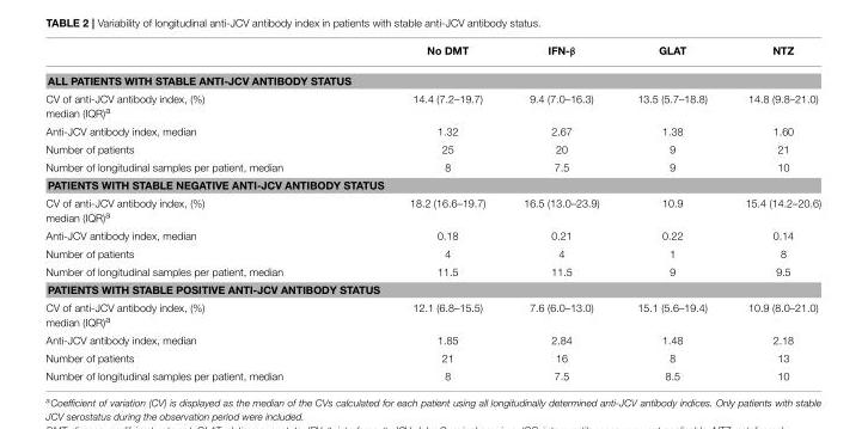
<table><thead><tr><td></td><td>No DMT</td><td>IFN-β</td><td>GLAT</td><td>NTZ</td></tr></thead><tbody><tr><td colspan="5">ALL PATIENTS WITH STABLE ANTI-JCV ANTIBODY STATUS</td></tr><tr><td>CV of anti-JCV antibody index, (%) median (IQR)<sup>a</sup></td><td>14.4 (7.2–19.7)</td><td>9.4 (7.0–16.3)</td><td>13.5 (5.7–18.8)</td><td>14.8 (9.8–21.0)</td></tr><tr><td>Anti-JCV antibody index, median</td><td>1.32</td><td>2.67</td><td>1.38</td><td>1.60</td></tr><tr><td>Number of patients</td><td>25</td><td>20</td><td>9</td><td>21</td></tr><tr><td>Number of longitudinal samples per patient, median</td><td>8</td><td>7.5</td><td>9</td><td>10</td></tr><tr><td colspan="5">PATIENTS WITH STABLE NEGATIVE ANTI-JCV ANTIBODY STATUS</td></tr><tr><td>CV of anti-JCV antibody index, (%) median (IQR)<sup>a</sup></td><td>18.2 (16.6–19.7)</td><td>16.5 (13.0–23.9)</td><td>10.9</td><td>15.4 (14.2–20.6)</td></tr><tr><td>Anti-JCV antibody index, median</td><td>0.18</td><td>0.21</td><td>0.22</td><td>0.14</td></tr><tr><td>Number of patients</td><td>4</td><td>4</td><td>1</td><td>8</td></tr><tr><td>Number of longitudinal samples per patient, median</td><td>11.5</td><td>11.5</td><td>9</td><td>9.5</td></tr><tr><td colspan="5">PATIENTS WITH STABLE POSITIVE ANTI-JCV ANTIBODY STATUS</td></tr><tr><td>CV of anti-JCV antibody index, (%) median (IQR)<sup>a</sup></td><td>12.1 (6.8–15.5)</td><td>7.6 (6.0–13.0)</td><td>15.1 (5.6–19.4)</td><td>10.9 (8.0–21.0)</td></tr><tr><td>Anti-JCV antibody index, median</td><td>1.85</td><td>2.84</td><td>1.48</td><td>2.18</td></tr><tr><td>Number of patients</td><td>21</td><td>16</td><td>8</td><td>13</td></tr><tr><td>Number of longitudinal samples per patient, median</td><td>8</td><td>7.5</td><td>8.5</td><td>10</td></tr></tbody></table>